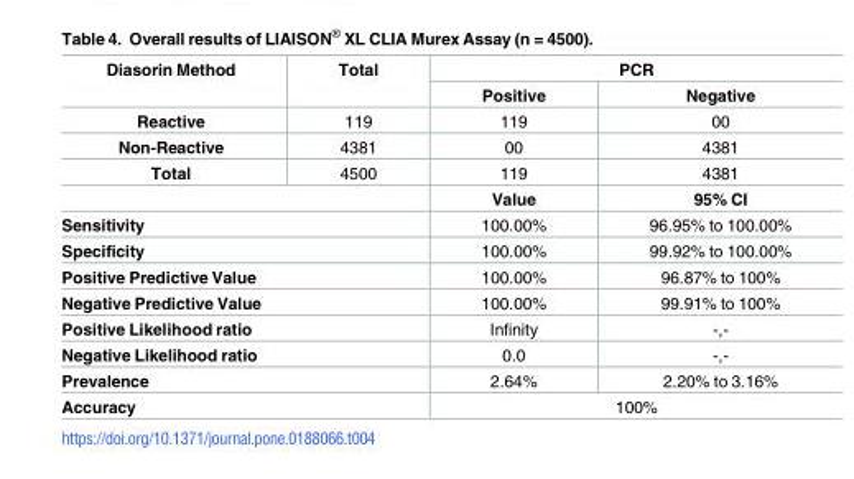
<table><thead><tr><td rowspan="2">Diasorin Method</td><td rowspan="2">Total</td><td colspan="2">PCR</td></tr><tr><td>Positive</td><td>Negative</td></tr></thead><tbody><tr><td>Reactive</td><td>119</td><td>119</td><td>00</td></tr><tr><td>Non-Reactive</td><td>4381</td><td>00</td><td>4381</td></tr><tr><td>Total</td><td>4500</td><td>119</td><td>4381</td></tr><tr><td colspan="2"></td><td>Value</td><td>95% CI</td></tr><tr><td colspan="2">Sensitivity</td><td>100.00%</td><td>96.95% to 100.00%</td></tr><tr><td colspan="2">Specificity</td><td>100.00%</td><td>99.92% to 100.00%</td></tr><tr><td colspan="2">Positive Predictive Value</td><td>100.00%</td><td>96.87% to 100%</td></tr><tr><td colspan="2">Negative Predictive Value</td><td>100.00%</td><td>99.91% to 100%</td></tr><tr><td colspan="2">Positive Likelihood ratio</td><td>Infinity</td><td>-,-</td></tr><tr><td colspan="2">Negative Likelihood ratio</td><td>0.0</td><td>-,-</td></tr><tr><td colspan="2">Prevalence</td><td>2.64%</td><td>2.20% to 3.16%</td></tr><tr><td colspan="2">Accuracy</td><td colspan="2">100%</td></tr></tbody></table>